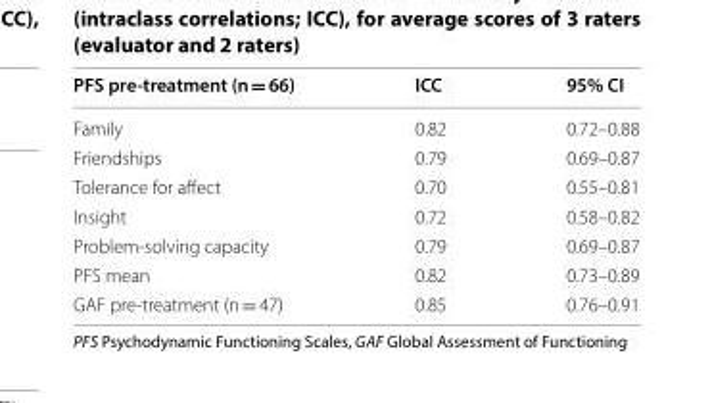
<table><thead><tr><td>PFS pre‑treatment (n = 66)</td><td>ICC</td><td>95% CI</td></tr></thead><tbody><tr><td>Family</td><td>0.82</td><td>0.72–0.88</td></tr><tr><td>Friendships</td><td>0.79</td><td>0.69–0.87</td></tr><tr><td>Tolerance for affect</td><td>0.70</td><td>0.55–0.81</td></tr><tr><td>Insight</td><td>0.72</td><td>0.58–0.82</td></tr><tr><td>Problem‑solving capacity</td><td>0.79</td><td>0.69–0.87</td></tr><tr><td>PFS mean</td><td>0.82</td><td>0.73–0.89</td></tr><tr><td>GAF pre‑treatment (n = 47)</td><td>0.85</td><td>0.76–0.91</td></tr></tbody></table>